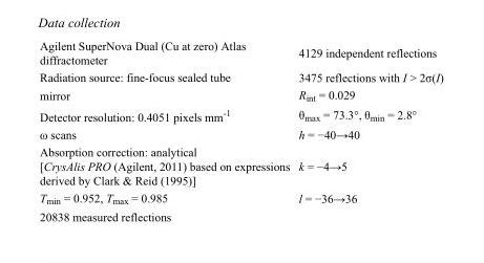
<table><tbody><tr><td>Agilent SuperNova Dual (Cu at zero) Atlas diffractometer</td><td>4129 independent reflections</td></tr><tr><td>Radiation source: fine-focus sealed tube</td><td>3475 reflections with I &gt; 2σ(I)</td></tr><tr><td>mirror</td><td>R<sub>int</sub> = 0.029</td></tr><tr><td>Detector resolution: 0.4051 pixels mm<sup>-1</sup></td><td>θ<sub>max</sub> = 73.3°, θ<sub>min</sub> = 2.8°</td></tr><tr><td>ω scans</td><td>h = −40→40</td></tr><tr><td>Absorption correction: analytical [CrysAlis PRO (Agilent, 2011) based on expressions derived by Clark &amp; Reid (1995)]</td><td>k = −4→5</td></tr><tr><td>T<sub>min</sub> = 0.952, T<sub>max</sub> = 0.985</td><td>l = −36→36</td></tr><tr><td>20838 measured reflections</td><td></td></tr></tbody></table>